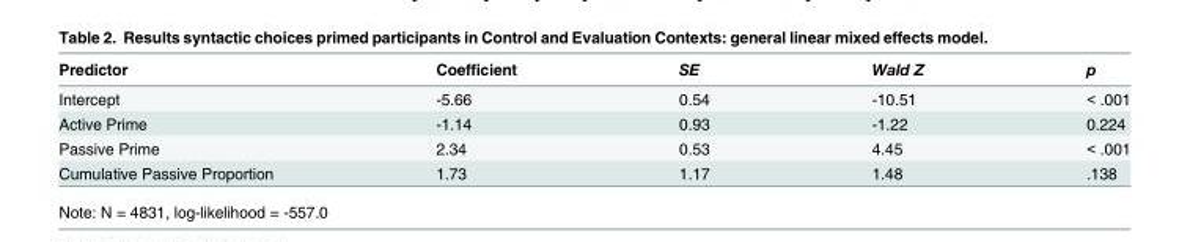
<table><thead><tr><td>Predictor</td><td>Coefficient</td><td>SE</td><td>Wald Z</td><td>p</td></tr></thead><tbody><tr><td>Intercept</td><td>-5.66</td><td>0.54</td><td>-10.51</td><td>&lt; .001</td></tr><tr><td>Active Prime</td><td>-1.14</td><td>0.93</td><td>-1.22</td><td>0.224</td></tr><tr><td>Passive Prime</td><td>2.34</td><td>0.53</td><td>4.45</td><td>&lt; .001</td></tr><tr><td>Cumulative Passive Proportion</td><td>1.73</td><td>1.17</td><td>1.48</td><td>.138</td></tr></tbody></table>